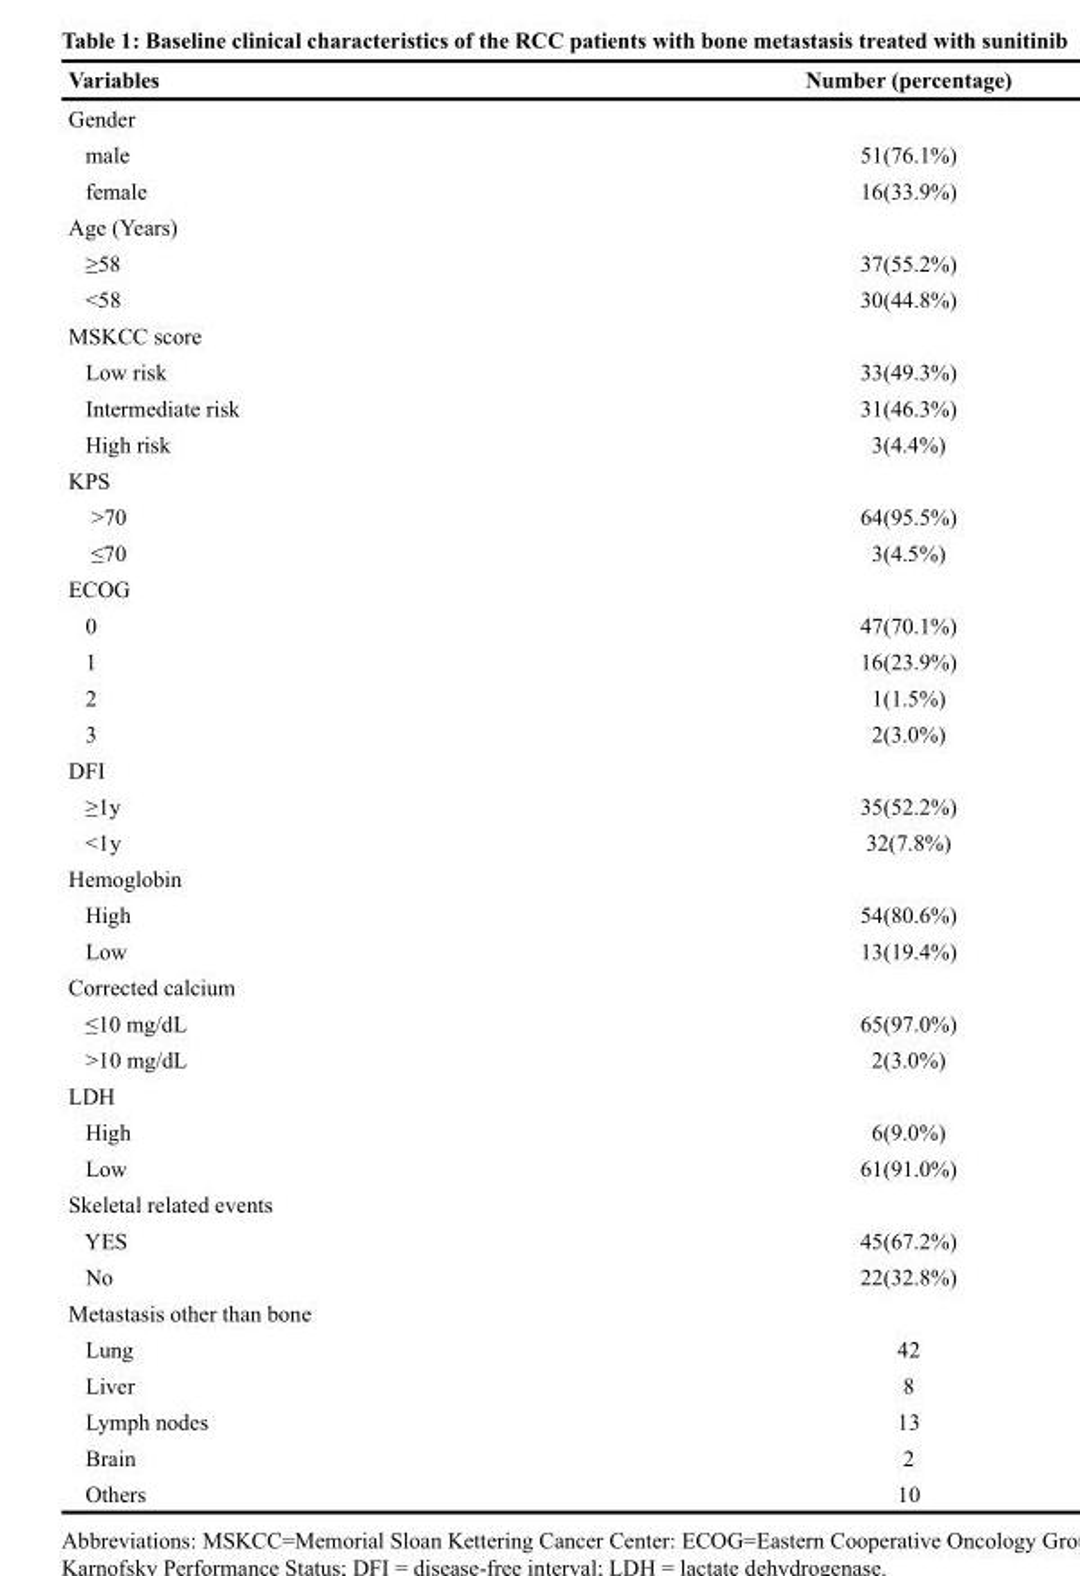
<table><thead><tr><td>Variables</td><td>Number (percentage)</td></tr></thead><tbody><tr><td colspan="2">Gender</td></tr><tr><td>male</td><td>51(76.1%)</td></tr><tr><td>female</td><td>16(33.9%)</td></tr><tr><td colspan="2">Age (Years)</td></tr><tr><td>≥58</td><td>37(55.2%)</td></tr><tr><td>&lt;58</td><td>30(44.8%)</td></tr><tr><td colspan="2">MSKCC score</td></tr><tr><td>Low risk</td><td>33(49.3%)</td></tr><tr><td>Intermediate risk</td><td>31(46.3%)</td></tr><tr><td>High risk</td><td>3(4.4%)</td></tr><tr><td colspan="2">KPS</td></tr><tr><td>&gt;70</td><td>64(95.5%)</td></tr><tr><td>≤70</td><td>3(4.5%)</td></tr><tr><td colspan="2">ECOG</td></tr><tr><td>0</td><td>47(70.1%)</td></tr><tr><td>1</td><td>16(23.9%)</td></tr><tr><td>2</td><td>1(1.5%)</td></tr><tr><td>3</td><td>2(3.0%)</td></tr><tr><td colspan="2">DFI</td></tr><tr><td>≥1y</td><td>35(52.2%)</td></tr><tr><td>&lt;1y</td><td>32(7.8%)</td></tr><tr><td colspan="2">Hemoglobin</td></tr><tr><td>High</td><td>54(80.6%)</td></tr><tr><td>Low</td><td>13(19.4%)</td></tr><tr><td colspan="2">Corrected calcium</td></tr><tr><td>≤10 mg/dL</td><td>65(97.0%)</td></tr><tr><td>&gt;10 mg/dL</td><td>2(3.0%)</td></tr><tr><td colspan="2">LDH</td></tr><tr><td>High</td><td>6(9.0%)</td></tr><tr><td>Low</td><td>61(91.0%)</td></tr><tr><td colspan="2">Skeletal related events</td></tr><tr><td>YES</td><td>45(67.2%)</td></tr><tr><td>No</td><td>22(32.8%)</td></tr><tr><td colspan="2">Metastasis other than bone</td></tr><tr><td>Lung</td><td>42</td></tr><tr><td>Liver</td><td>8</td></tr><tr><td>Lymph nodes</td><td>13</td></tr><tr><td>Brain</td><td>2</td></tr><tr><td>Others</td><td>10</td></tr></tbody></table>